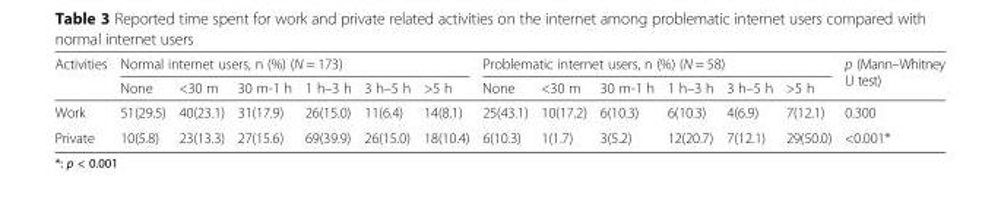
<table><thead><tr><td rowspan="2">Activities</td><td colspan="6">Normal internet users, n (%) (N = 173)</td><td colspan="6">Problematic internet users, n (%) (N = 58)</td><td rowspan="2">p (Mann–Whitney U test)</td></tr><tr><td>None</td><td>&lt;30 m</td><td>30 m-1 h</td><td>1 h–3 h</td><td>3 h–5 h</td><td>&gt;5 h</td><td>None</td><td>&lt;30 m</td><td>30 m-1 h</td><td>1 h–3 h</td><td>3 h–5 h</td><td>&gt;5 h</td></tr></thead><tbody><tr><td>Work</td><td>51(29.5)</td><td>40(23.1)</td><td>31(17.9)</td><td>26(15.0)</td><td>11(6.4)</td><td>14(8.1)</td><td>25(43.1)</td><td>10(17.2)</td><td>6(10.3)</td><td>6(10.3)</td><td>4(6.9)</td><td>7(12.1)</td><td>0.300</td></tr><tr><td>Private</td><td>10(5.8)</td><td>23(13.3)</td><td>27(15.6)</td><td>69(39.9)</td><td>26(15.0)</td><td>18(10.4)</td><td>6(10.3)</td><td>1(1.7)</td><td>3(5.2)</td><td>12(20.7)</td><td>7(12.1)</td><td>29(50.0)</td><td>&lt;0.001*</td></tr></tbody></table>